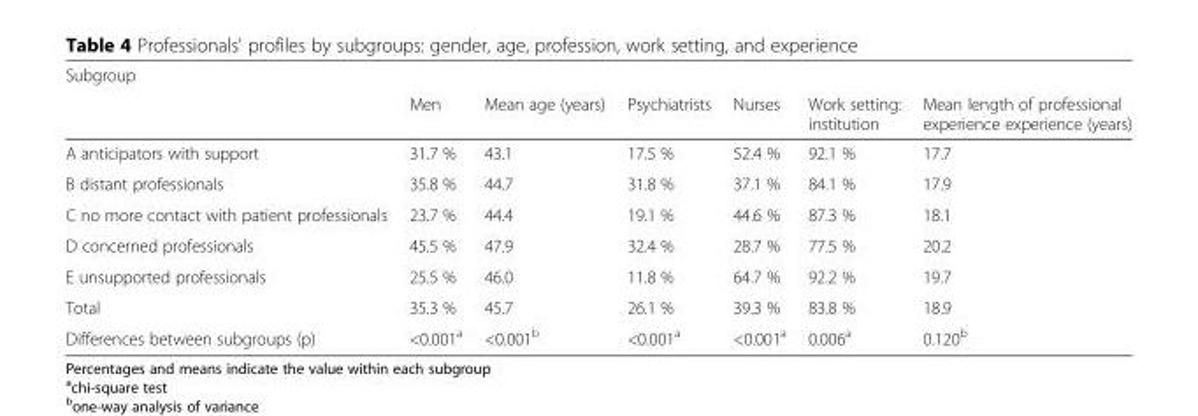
<table><thead><tr><td rowspan="2">Subgroup</td><td rowspan="2">Men</td><td rowspan="2">Mean age (years)</td><td rowspan="2">Psychiatrists</td><td rowspan="2">Nurses</td><td rowspan="2">Work setting: institution</td><td rowspan="2">Mean length of professional experience experience (years)</td></tr><tr></tr></thead><tbody><tr><td>A anticipators with support</td><td>31.7 %</td><td>43.1</td><td>17.5 %</td><td>52.4 %</td><td>92.1 %</td><td>17.7</td></tr><tr><td>B distant professionals</td><td>35.8 %</td><td>44.7</td><td>31.8 %</td><td>37.1 %</td><td>84.1 %</td><td>17.9</td></tr><tr><td>C no more contact with patient professionals</td><td>23.7 %</td><td>44.4</td><td>19.1 %</td><td>44.6 %</td><td>87.3 %</td><td>18.1</td></tr><tr><td>D concerned professionals</td><td>45.5 %</td><td>47.9</td><td>32.4 %</td><td>28.7 %</td><td>77.5 %</td><td>20.2</td></tr><tr><td>E unsupported professionals</td><td>25.5 %</td><td>46.0</td><td>11.8 %</td><td>64.7 %</td><td>92.2 %</td><td>19.7</td></tr><tr><td>Total</td><td>35.3 %</td><td>45.7</td><td>26.1 %</td><td>39.3 %</td><td>83.8 %</td><td>18.9</td></tr><tr><td>Differences between subgroups (p)</td><td>&lt;0.001<sup>a</sup></td><td>&lt;0.001<sup>b</sup></td><td>&lt;0.001<sup>a</sup></td><td>&lt;0.001<sup>a</sup></td><td>0.006<sup>a</sup></td><td>0.120<sup>b</sup></td></tr></tbody></table>